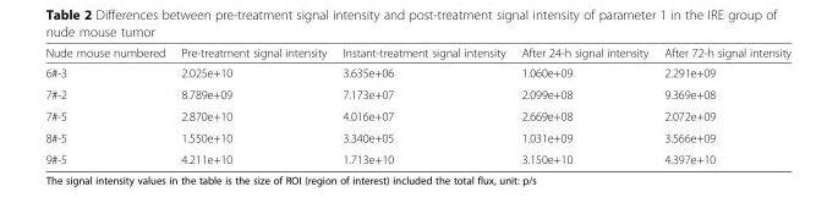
<table><thead><tr><td>Nude mouse numbered</td><td>Pre-treatment signal intensity</td><td>Instant-treatment signal intensity</td><td>After 24-h signal intensity</td><td>After 72-h signal intensity</td></tr></thead><tbody><tr><td>6#-3</td><td>2.025e+10</td><td>3.635e+06</td><td>1.060e+09</td><td>2.291e+09</td></tr><tr><td>7#-2</td><td>8.789e+09</td><td>7.173e+07</td><td>2.099e+08</td><td>9.369e+08</td></tr><tr><td>7#-5</td><td>2.870e+10</td><td>4.016e+07</td><td>2.669e+08</td><td>2.072e+09</td></tr><tr><td>8#-5</td><td>1.550e+10</td><td>3.340e+05</td><td>1.031e+09</td><td>3.566e+09</td></tr><tr><td>9#-5</td><td>4.211e+10</td><td>1.713e+10</td><td>3.150e+10</td><td>4.397e+10</td></tr></tbody></table>